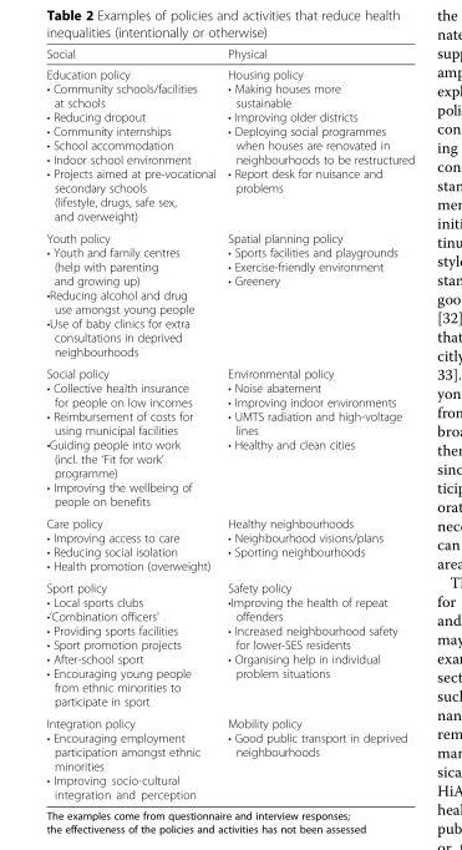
<table><thead><tr><td>Social</td><td>Physical</td></tr></thead><tbody><tr><td>Education policy • Community schools/facilities at schools • Reducing dropout • Community internships • School accommodation • Indoor school environment • Projects aimed at pre-vocational secondary schools (lifestyle, drugs, safe sex, and overweight)</td><td>Housing policy • Making houses more sustainable • Improving older districts • Deploying social programmes when houses are renovated in neighbourhoods to be restructured • Report desk for nuisance and problems</td></tr><tr><td>Youth policy • Youth and family centres (help with parenting and growing up) •Reducing alcohol and drug use amongst young people •Use of baby clinics for extra consultations in deprived neighbourhoods</td><td>Spatial planning policy • Sports facilities and playgrounds • Exercise-friendly environment • Greenery</td></tr><tr><td>Social policy • Collective health insurance for people on low incomes • Reimbursement of costs for using municipal facilities •Guiding people into work (incl. the ‘Fit for work’ programme) • Improving the wellbeing of people on benefits</td><td>Environmental policy • Noise abatement • Improving indoor environments • UMTS radiation and high-voltage lines • Healthy and clean cities</td></tr><tr><td>Care policy • Improving access to care • Reducing social isolation • Health promotion (overweight)</td><td>Healthy neighbourhoods • Neighbourhood visions/plans • Sporting neighbourhoods</td></tr><tr><td>Sport policy • Local sports clubs •‘Combination officers’ • Providing sports facilities • Sport promotion projects • After-school sport • Encouraging young people from ethnic minorities to participate in sport</td><td>Safety policy •Improving the health of repeat offenders • Increased neighbourhood safety for lower-SES residents • Organising help in individual problem situations</td></tr><tr><td>Integration policy • Encouraging employment participation amongst ethnic minorities • Improving socio-cultural integration and perception</td><td>Mobility policy • Good public transport in deprived neighbourhoods</td></tr></tbody></table>